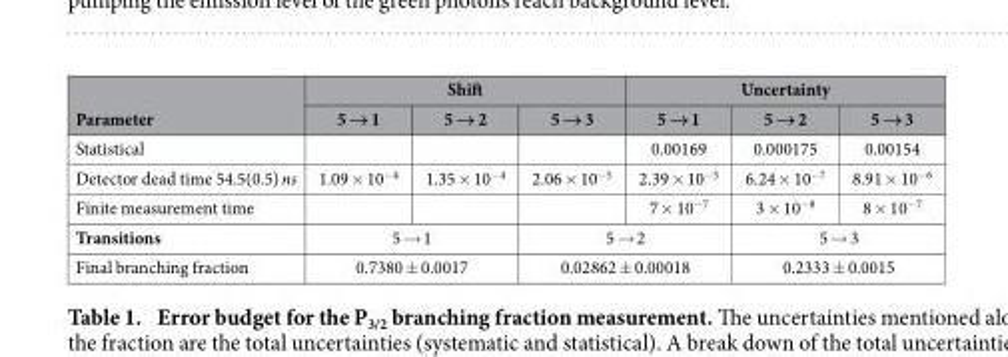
<table><thead><tr><td rowspan="2">Parameter</td><td colspan="3">Shift</td><td colspan="3">Uncertainty</td></tr><tr><td>5 → 1</td><td>5 → 2</td><td>5 → 3</td><td>5 → 1</td><td>5 → 2</td><td>5 → 3</td></tr></thead><tbody><tr><td>Statistical</td><td></td><td></td><td></td><td>0.00169</td><td>0.000175</td><td>0.00154</td></tr><tr><td>Detector dead time 54.5(0.5) ns</td><td>1.09 × 10<sup>−4</sup></td><td>1.35 × 10<sup>−4</sup></td><td>2.06 × 10<sup>−5</sup></td><td>2.39 × 10<sup>−5</sup></td><td>6.24 × 10<sup>−7</sup></td><td>8.91 × 10<sup>−6</sup></td></tr><tr><td>Finite measurement time</td><td></td><td></td><td></td><td>7 × 10<sup>−7</sup></td><td>3 × 10<sup>−8</sup></td><td>8 × 10<sup>−7</sup></td></tr><tr><td>Transitions</td><td colspan="2">5 → 1</td><td colspan="2">5 → 2</td><td colspan="2">5 → 3</td></tr><tr><td>Final branching fraction</td><td colspan="2">0.7380 ± 0.0017</td><td colspan="2">0.02862 ± 0.00018</td><td colspan="2">0.2333 ± 0.0015</td></tr></tbody></table>